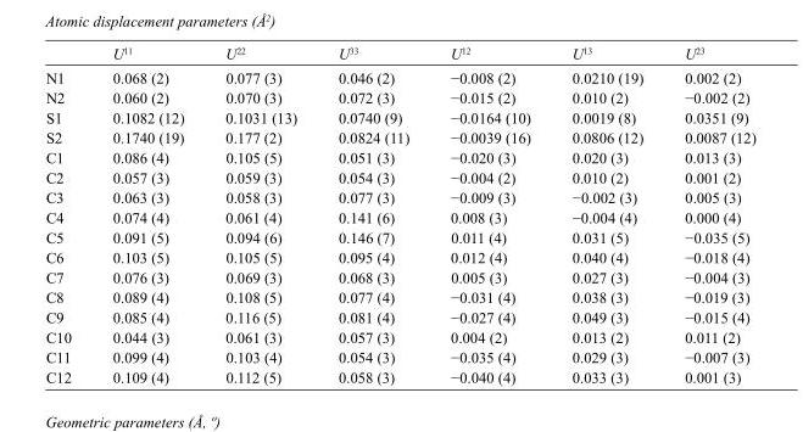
<table><thead><tr><td></td><td>U<sup>11</sup></td><td>U<sup>22</sup></td><td>U<sup>33</sup></td><td>U<sup>12</sup></td><td>U<sup>13</sup></td><td>U<sup>23</sup></td></tr></thead><tbody><tr><td>N1</td><td>0.068 (2)</td><td>0.077 (3)</td><td>0.046 (2)</td><td>−0.008 (2)</td><td>0.0210 (19)</td><td>0.002 (2)</td></tr><tr><td>N2</td><td>0.060 (2)</td><td>0.070 (3)</td><td>0.072 (3)</td><td>−0.015 (2)</td><td>0.010 (2)</td><td>−0.002 (2)</td></tr><tr><td>S1</td><td>0.1082 (12)</td><td>0.1031 (13)</td><td>0.0740 (9)</td><td>−0.0164 (10)</td><td>0.0019 (8)</td><td>0.0351 (9)</td></tr><tr><td>S2</td><td>0.1740 (19)</td><td>0.177 (2)</td><td>0.0824 (11)</td><td>−0.0039 (16)</td><td>0.0806 (12)</td><td>0.0087 (12)</td></tr><tr><td>C1</td><td>0.086 (4)</td><td>0.105 (5)</td><td>0.051 (3)</td><td>−0.020 (3)</td><td>0.020 (3)</td><td>0.013 (3)</td></tr><tr><td>C2</td><td>0.057 (3)</td><td>0.059 (3)</td><td>0.054 (3)</td><td>−0.004 (2)</td><td>0.010 (2)</td><td>0.001 (2)</td></tr><tr><td>C3</td><td>0.063 (3)</td><td>0.058 (3)</td><td>0.077 (3)</td><td>−0.009 (3)</td><td>−0.002 (3)</td><td>0.005 (3)</td></tr><tr><td>C4</td><td>0.074 (4)</td><td>0.061 (4)</td><td>0.141 (6)</td><td>0.008 (3)</td><td>−0.004 (4)</td><td>0.000 (4)</td></tr><tr><td>C5</td><td>0.091 (5)</td><td>0.094 (6)</td><td>0.146 (7)</td><td>0.011 (4)</td><td>0.031 (5)</td><td>−0.035 (5)</td></tr><tr><td>C6</td><td>0.103 (5)</td><td>0.105 (5)</td><td>0.095 (4)</td><td>0.012 (4)</td><td>0.040 (4)</td><td>−0.018 (4)</td></tr><tr><td>C7</td><td>0.076 (3)</td><td>0.069 (3)</td><td>0.068 (3)</td><td>0.005 (3)</td><td>0.027 (3)</td><td>−0.004 (3)</td></tr><tr><td>C8</td><td>0.089 (4)</td><td>0.108 (5)</td><td>0.077 (4)</td><td>−0.031 (4)</td><td>0.038 (3)</td><td>−0.019 (3)</td></tr><tr><td>C9</td><td>0.085 (4)</td><td>0.116 (5)</td><td>0.081 (4)</td><td>−0.027 (4)</td><td>0.049 (3)</td><td>−0.015 (4)</td></tr><tr><td>C10</td><td>0.044 (3)</td><td>0.061 (3)</td><td>0.057 (3)</td><td>0.004 (2)</td><td>0.013 (2)</td><td>0.011 (2)</td></tr><tr><td>C11</td><td>0.099 (4)</td><td>0.103 (4)</td><td>0.054 (3)</td><td>−0.035 (4)</td><td>0.029 (3)</td><td>−0.007 (3)</td></tr><tr><td>C12</td><td>0.109 (4)</td><td>0.112 (5)</td><td>0.058 (3)</td><td>−0.040 (4)</td><td>0.033 (3)</td><td>0.001 (3)</td></tr></tbody></table>